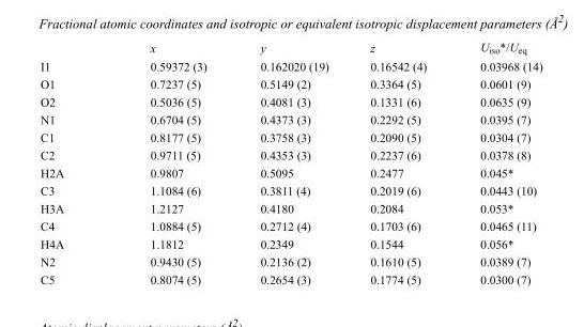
<table><thead><tr><td></td><td>x</td><td>y</td><td>z</td><td>U<sub>iso</sub>*/U<sub>eq</sub></td></tr></thead><tbody><tr><td>I1</td><td>0.59372 (3)</td><td>0.162020 (19)</td><td>0.16542 (4)</td><td>0.03968 (14)</td></tr><tr><td>O1</td><td>0.7237 (5)</td><td>0.5149 (2)</td><td>0.3364 (5)</td><td>0.0601 (9)</td></tr><tr><td>O2</td><td>0.5036 (5)</td><td>0.4081 (3)</td><td>0.1331 (6)</td><td>0.0635 (9)</td></tr><tr><td>N1</td><td>0.6704 (5)</td><td>0.4373 (3)</td><td>0.2292 (5)</td><td>0.0395 (7)</td></tr><tr><td>C1</td><td>0.8177 (5)</td><td>0.3758 (3)</td><td>0.2090 (5)</td><td>0.0304 (7)</td></tr><tr><td>C2</td><td>0.9711 (5)</td><td>0.4353 (3)</td><td>0.2237 (6)</td><td>0.0378 (8)</td></tr><tr><td>H2A</td><td>0.9807</td><td>0.5095</td><td>0.2477</td><td>0.045*</td></tr><tr><td>C3</td><td>1.1084 (6)</td><td>0.3811 (4)</td><td>0.2019 (6)</td><td>0.0443 (10)</td></tr><tr><td>H3A</td><td>1.2127</td><td>0.4180</td><td>0.2084</td><td>0.053*</td></tr><tr><td>C4</td><td>1.0884 (5)</td><td>0.2712 (4)</td><td>0.1703 (6)</td><td>0.0465 (11)</td></tr><tr><td>H4A</td><td>1.1812</td><td>0.2349</td><td>0.1544</td><td>0.056*</td></tr><tr><td>N2</td><td>0.9430 (5)</td><td>0.2136 (2)</td><td>0.1610 (5)</td><td>0.0389 (7)</td></tr><tr><td>C5</td><td>0.8074 (5)</td><td>0.2654 (3)</td><td>0.1774 (5)</td><td>0.0300 (7)</td></tr></tbody></table>